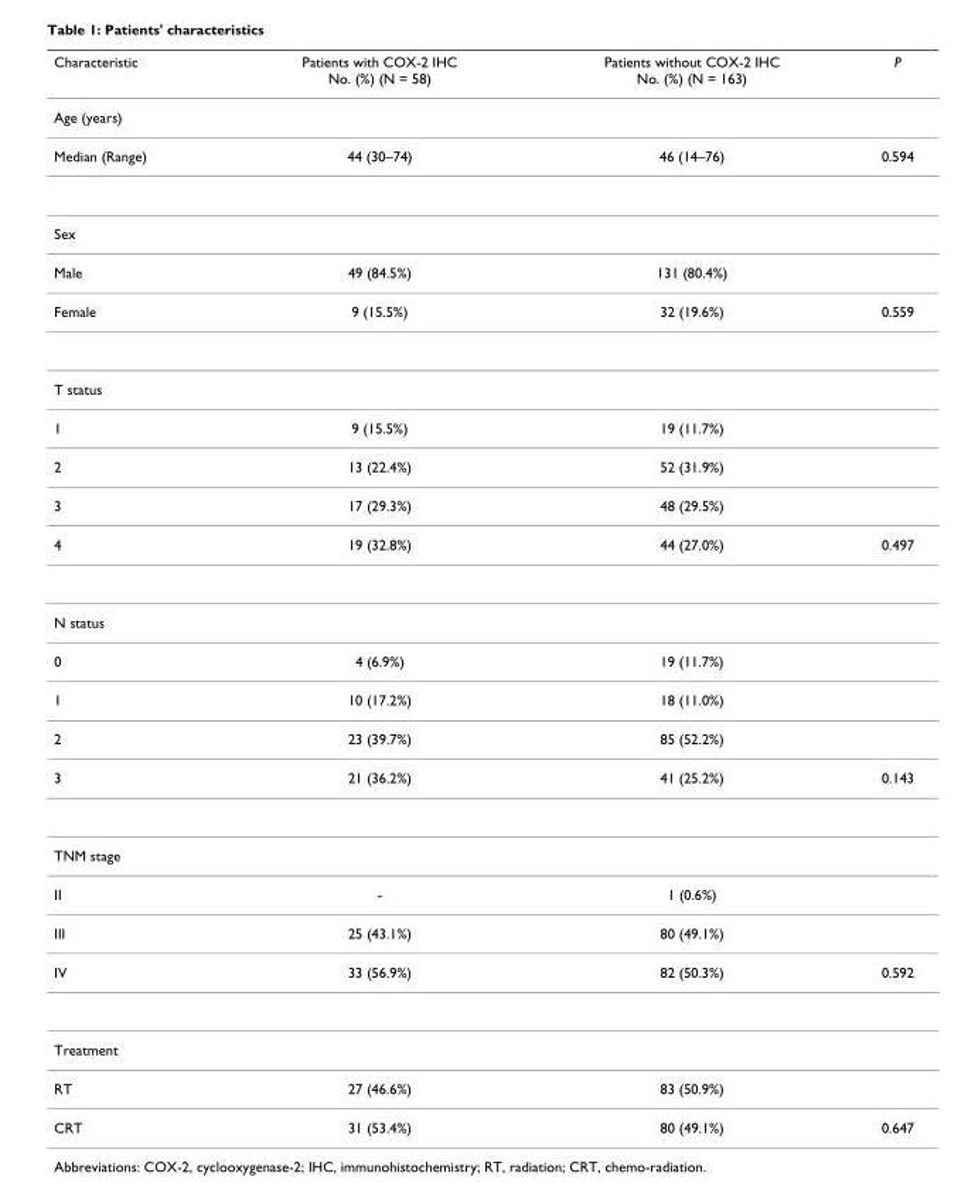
<table><thead><tr><td>Characteristic</td><td>Patients with COX-2 IHC No. (%) (N = 58)</td><td>Patients without COX-2 IHC No. (%) (N = 163)</td><td>P</td></tr></thead><tbody><tr><td colspan="4">Age (years)</td></tr><tr><td>Median (Range)</td><td>44 (30–74)</td><td>46 (14–76)</td><td>0.594</td></tr><tr><td colspan="4">Sex</td></tr><tr><td>Male</td><td>49 (84.5%)</td><td>131 (80.4%)</td><td></td></tr><tr><td>Female</td><td>9 (15.5%)</td><td>32 (19.6%)</td><td>0.559</td></tr><tr><td colspan="4">T status</td></tr><tr><td>1</td><td>9 (15.5%)</td><td>19 (11.7%)</td><td></td></tr><tr><td>2</td><td>13 (22.4%)</td><td>52 (31.9%)</td><td></td></tr><tr><td>3</td><td>17 (29.3%)</td><td>48 (29.5%)</td><td></td></tr><tr><td>4</td><td>19 (32.8%)</td><td>44 (27.0%)</td><td>0.497</td></tr><tr><td colspan="4">N status</td></tr><tr><td>0</td><td>4 (6.9%)</td><td>19 (11.7%)</td><td></td></tr><tr><td>1</td><td>10 (17.2%)</td><td>18 (11.0%)</td><td></td></tr><tr><td>2</td><td>23 (39.7%)</td><td>85 (52.2%)</td><td></td></tr><tr><td>3</td><td>21 (36.2%)</td><td>41 (25.2%)</td><td>0.143</td></tr><tr><td colspan="4">TNM stage</td></tr><tr><td>II</td><td>-</td><td>1 (0.6%)</td><td></td></tr><tr><td>III</td><td>25 (43.1%)</td><td>80 (49.1%)</td><td></td></tr><tr><td>IV</td><td>33 (56.9%)</td><td>82 (50.3%)</td><td>0.592</td></tr><tr><td colspan="4">Treatment</td></tr><tr><td>RT</td><td>27 (46.6%)</td><td>83 (50.9%)</td><td></td></tr><tr><td>CRT</td><td>31 (53.4%)</td><td>80 (49.1%)</td><td>0.647</td></tr></tbody></table>